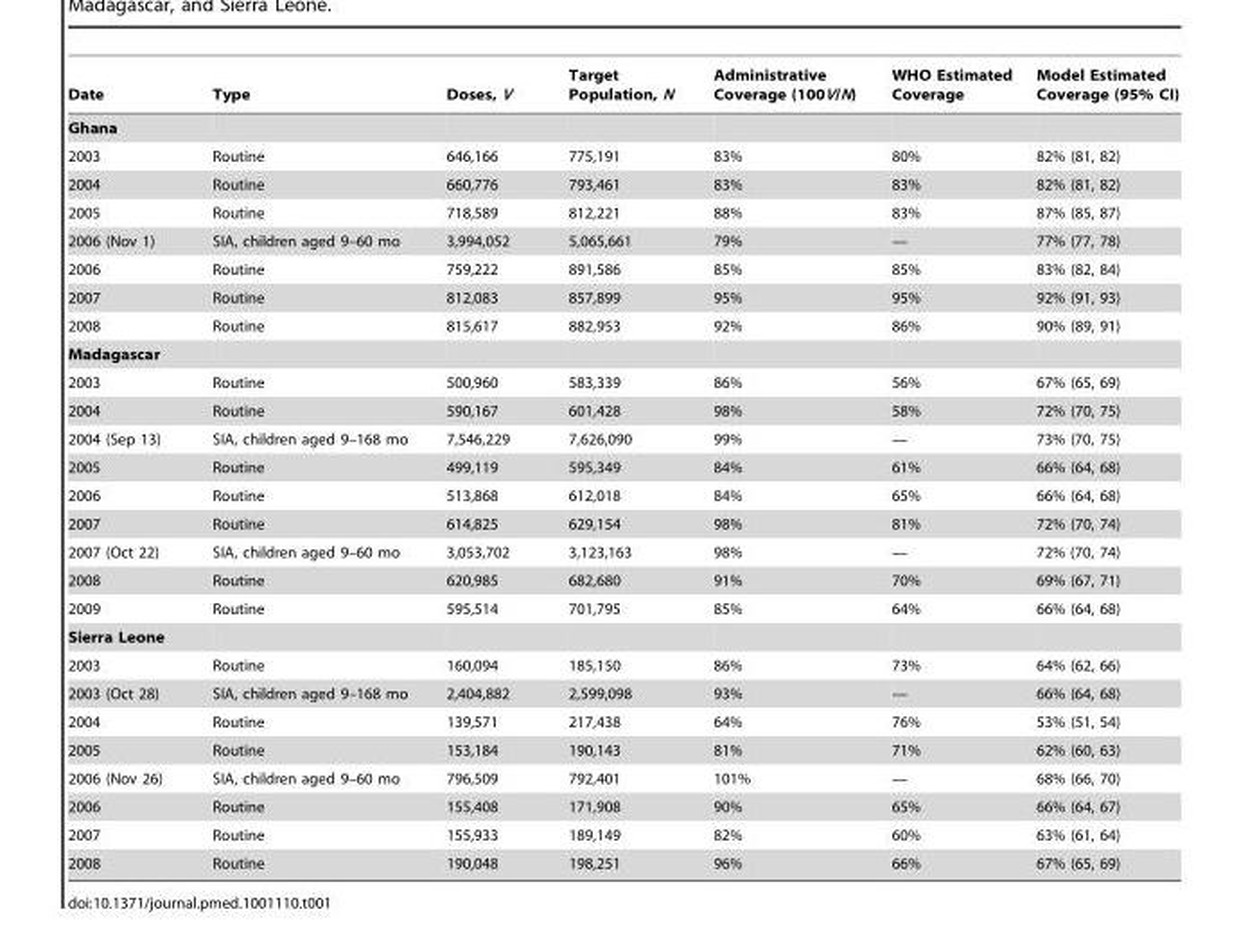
<table><thead><tr><td>Date</td><td>Type</td><td>Doses, V</td><td>Target Population, N</td><td>Administrative Coverage (100V/N)</td><td>WHO Estimated Coverage</td><td>Model Estimated Coverage (95% CI)</td></tr></thead><tbody><tr><td colspan="7">Ghana</td></tr><tr><td>2003</td><td>Routine</td><td>646,166</td><td>775,191</td><td>83%</td><td>80%</td><td>82% (81, 82)</td></tr><tr><td>2004</td><td>Routine</td><td>660,776</td><td>793,461</td><td>83%</td><td>83%</td><td>82% (81, 82)</td></tr><tr><td>2005</td><td>Routine</td><td>718,589</td><td>812,221</td><td>88%</td><td>83%</td><td>87% (85, 87)</td></tr><tr><td>2006 (Nov 1)</td><td>SIA, children aged 9–60 mo</td><td>3,994,052</td><td>5,065,661</td><td>79%</td><td>—</td><td>77% (77, 78)</td></tr><tr><td>2006</td><td>Routine</td><td>759,222</td><td>891,586</td><td>85%</td><td>85%</td><td>83% (82, 84)</td></tr><tr><td>2007</td><td>Routine</td><td>812,083</td><td>857,899</td><td>95%</td><td>95%</td><td>92% (91, 93)</td></tr><tr><td>2008</td><td>Routine</td><td>815,617</td><td>882,953</td><td>92%</td><td>86%</td><td>90% (89, 91)</td></tr><tr><td colspan="7">Madagascar</td></tr><tr><td>2003</td><td>Routine</td><td>500,960</td><td>583,339</td><td>86%</td><td>56%</td><td>67% (65, 69)</td></tr><tr><td>2004</td><td>Routine</td><td>590,167</td><td>601,428</td><td>98%</td><td>58%</td><td>72% (70, 75)</td></tr><tr><td>2004 (Sep 13)</td><td>SIA, children aged 9–168 mo</td><td>7,546,229</td><td>7,626,090</td><td>99%</td><td>—</td><td>73% (70, 75)</td></tr><tr><td>2005</td><td>Routine</td><td>499,119</td><td>595,349</td><td>84%</td><td>61%</td><td>66% (64, 68)</td></tr><tr><td>2006</td><td>Routine</td><td>513,868</td><td>612,018</td><td>84%</td><td>65%</td><td>66% (64, 68)</td></tr><tr><td>2007</td><td>Routine</td><td>614,825</td><td>629,154</td><td>98%</td><td>81%</td><td>72% (70, 74)</td></tr><tr><td>2007 (Oct 22)</td><td>SIA, children aged 9–60 mo</td><td>3,053,702</td><td>3,123,163</td><td>98%</td><td>—</td><td>72% (70, 74)</td></tr><tr><td>2008</td><td>Routine</td><td>620,985</td><td>682,680</td><td>91%</td><td>70%</td><td>69% (67, 71)</td></tr><tr><td>2009</td><td>Routine</td><td>595,514</td><td>701,795</td><td>85%</td><td>64%</td><td>66% (64, 68)</td></tr><tr><td colspan="7">Sierra Leone</td></tr><tr><td>2003</td><td>Routine</td><td>160,094</td><td>185,150</td><td>86%</td><td>73%</td><td>64% (62, 66)</td></tr><tr><td>2003 (Oct 28)</td><td>SIA, children aged 9–168 mo</td><td>2,404,882</td><td>2,599,098</td><td>93%</td><td>—</td><td>66% (64, 68)</td></tr><tr><td>2004</td><td>Routine</td><td>139,571</td><td>217,438</td><td>64%</td><td>76%</td><td>53% (51, 54)</td></tr><tr><td>2005</td><td>Routine</td><td>153,184</td><td>190,143</td><td>81%</td><td>71%</td><td>62% (60, 63)</td></tr><tr><td>2006 (Nov 26)</td><td>SIA, children aged 9–60 mo</td><td>796,509</td><td>792,401</td><td>101%</td><td>—</td><td>68% (66, 70)</td></tr><tr><td>2006</td><td>Routine</td><td>155,408</td><td>171,908</td><td>90%</td><td>65%</td><td>66% (64, 67)</td></tr><tr><td>2007</td><td>Routine</td><td>155,933</td><td>189,149</td><td>82%</td><td>60%</td><td>63% (61, 64)</td></tr><tr><td>2008</td><td>Routine</td><td>190,048</td><td>198,251</td><td>96%</td><td>66%</td><td>67% (65, 69)</td></tr></tbody></table>